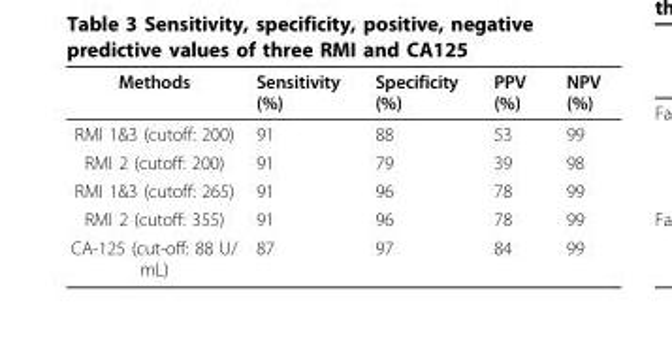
<table><thead><tr><td>Methods</td><td>Sensitivity (%)</td><td>Specificity (%)</td><td>PPV (%)</td><td>NPV (%)</td></tr></thead><tbody><tr><td>RMI 1&amp;3 (cutoff: 200)</td><td>91</td><td>88</td><td>53</td><td>99</td></tr><tr><td>RMI 2 (cutoff: 200)</td><td>91</td><td>79</td><td>39</td><td>98</td></tr><tr><td>RMI 1&amp;3 (cutoff: 265)</td><td>91</td><td>96</td><td>78</td><td>99</td></tr><tr><td>RMI 2 (cutoff: 355)</td><td>91</td><td>96</td><td>78</td><td>99</td></tr><tr><td>CA-125 (cut-off: 88 U/ mL)</td><td>87</td><td>97</td><td>84</td><td>99</td></tr></tbody></table>